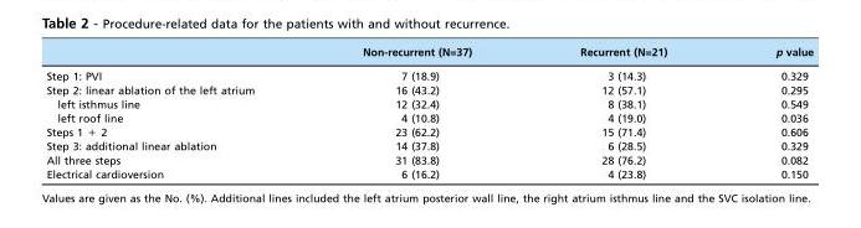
<table><thead><tr><td></td><td>Non-recurrent (N=37)</td><td>Recurrent (N=21)</td><td>p value</td></tr></thead><tbody><tr><td>Step 1: PVI</td><td>7 (18.9)</td><td>3 (14.3)</td><td>0.329</td></tr><tr><td>Step 2: linear ablation of the left atrium</td><td>16 (43.2)</td><td>12 (57.1)</td><td>0.295</td></tr><tr><td>left isthmus line</td><td>12 (32.4)</td><td>8 (38.1)</td><td>0.549</td></tr><tr><td>left roof line</td><td>4 (10.8)</td><td>4 (19.0)</td><td>0.036</td></tr><tr><td>Steps 1 + 2</td><td>23 (62.2)</td><td>15 (71.4)</td><td>0.606</td></tr><tr><td>Step 3: additional linear ablation</td><td>14 (37.8)</td><td>6 (28.5)</td><td>0.329</td></tr><tr><td>All three steps</td><td>31 (83.8)</td><td>28 (76.2)</td><td>0.082</td></tr><tr><td>Electrical cardioversion</td><td>6 (16.2)</td><td>4 (23.8)</td><td>0.150</td></tr></tbody></table>